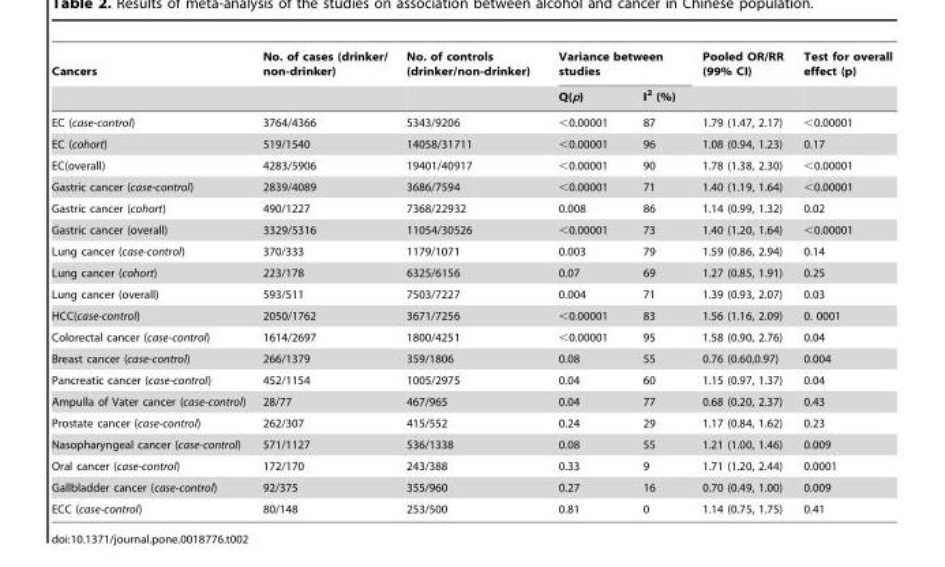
<table><thead><tr><td rowspan="2">Cancers</td><td rowspan="2">No. of cases (drinker/ non-drinker)</td><td rowspan="2">No. of controls (drinker/non-drinker)</td><td colspan="2">Variance between studies</td><td rowspan="2">Pooled OR/RR (99% CI)</td><td rowspan="2">Test for overall effect (p)</td></tr><tr><td>Q(p)</td><td>I<sup>2</sup> (%)</td></tr></thead><tbody><tr><td>EC (case-control)</td><td>3764/4366</td><td>5343/9206</td><td>&lt;0.00001</td><td>87</td><td>1.79 (1.47, 2.17)</td><td>&lt;0.00001</td></tr><tr><td>EC (cohort)</td><td>519/1540</td><td>14058/31711</td><td>&lt;0.00001</td><td>96</td><td>1.08 (0.94, 1.23)</td><td>0.17</td></tr><tr><td>EC(overall)</td><td>4283/5906</td><td>19401/40917</td><td>&lt;0.00001</td><td>90</td><td>1.78 (1.38, 2.30)</td><td>&lt;0.00001</td></tr><tr><td>Gastric cancer (case-control)</td><td>2839/4089</td><td>3686/7594</td><td>&lt;0.00001</td><td>71</td><td>1.40 (1.19, 1.64)</td><td>&lt;0.00001</td></tr><tr><td>Gastric cancer (cohort)</td><td>490/1227</td><td>7368/22932</td><td>0.008</td><td>86</td><td>1.14 (0.99, 1.32)</td><td>0.02</td></tr><tr><td>Gastric cancer (overall)</td><td>3329/5316</td><td>11054/30526</td><td>&lt;0.00001</td><td>73</td><td>1.40 (1.20, 1.64)</td><td>&lt;0.00001</td></tr><tr><td>Lung cancer (case-control)</td><td>370/333</td><td>1179/1071</td><td>0.003</td><td>79</td><td>1.59 (0.86, 2.94)</td><td>0.14</td></tr><tr><td>Lung cancer (cohort)</td><td>223/178</td><td>6325/6156</td><td>0.07</td><td>69</td><td>1.27 (0.85, 1.91)</td><td>0.25</td></tr><tr><td>Lung cancer (overall)</td><td>593/511</td><td>7503/7227</td><td>0.004</td><td>71</td><td>1.39 (0.93, 2.07)</td><td>0.03</td></tr><tr><td>HCC(case-control)</td><td>2050/1762</td><td>3671/7256</td><td>&lt;0.00001</td><td>83</td><td>1.56 (1.16, 2.09)</td><td>0. 0001</td></tr><tr><td>Colorectal cancer (case-control)</td><td>1614/2697</td><td>1800/4251</td><td>&lt;0.00001</td><td>95</td><td>1.58 (0.90, 2.76)</td><td>0.04</td></tr><tr><td>Breast cancer (case-control)</td><td>266/1379</td><td>359/1806</td><td>0.08</td><td>55</td><td>0.76 (0.60,0.97)</td><td>0.004</td></tr><tr><td>Pancreatic cancer (case-control)</td><td>452/1154</td><td>1005/2975</td><td>0.04</td><td>60</td><td>1.15 (0.97, 1.37)</td><td>0.04</td></tr><tr><td>Ampulla of Vater cancer (case-control)</td><td>28/77</td><td>467/965</td><td>0.04</td><td>77</td><td>0.68 (0.20, 2.37)</td><td>0.43</td></tr><tr><td>Prostate cancer (case-control)</td><td>262/307</td><td>415/552</td><td>0.24</td><td>29</td><td>1.17 (0.84, 1.62)</td><td>0.23</td></tr><tr><td>Nasopharyngeal cancer (case-control)</td><td>571/1127</td><td>536/1338</td><td>0.08</td><td>55</td><td>1.21 (1.00, 1.46)</td><td>0.009</td></tr><tr><td>Oral cancer (case-control)</td><td>172/170</td><td>243/388</td><td>0.33</td><td>9</td><td>1.71 (1.20, 2.44)</td><td>0.0001</td></tr><tr><td>Gallbladder cancer (case-control)</td><td>92/375</td><td>355/960</td><td>0.27</td><td>16</td><td>0.70 (0.49, 1.00)</td><td>0.009</td></tr><tr><td>ECC (case-control)</td><td>80/148</td><td>253/500</td><td>0.81</td><td>0</td><td>1.14 (0.75, 1.75)</td><td>0.41</td></tr></tbody></table>